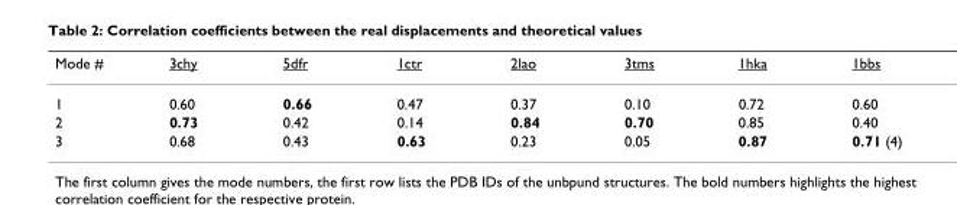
<table><thead><tr><td>Mode #</td><td>3chy</td><td>5dfr</td><td>1ctr</td><td>2lao</td><td>3tms</td><td>1hka</td><td>1bbs</td></tr></thead><tbody><tr><td>1</td><td>0.60</td><td>0.66</td><td>0.47</td><td>0.37</td><td>0.10</td><td>0.72</td><td>0.60</td></tr><tr><td>2</td><td>0.73</td><td>0.42</td><td>0.14</td><td>0.84</td><td>0.70</td><td>0.85</td><td>0.40</td></tr><tr><td>3</td><td>0.68</td><td>0.43</td><td>0.63</td><td>0.23</td><td>0.05</td><td>0.87</td><td>0.71 (4)</td></tr></tbody></table>